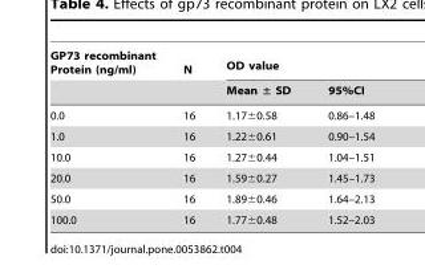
<table><thead><tr><td rowspan="2">GP73 recombinant Protein (ng/ml)</td><td rowspan="2">N</td><td colspan="2">OD value</td></tr><tr><td>Mean ± SD</td><td>95%CI</td></tr></thead><tbody><tr><td>0.0</td><td>16</td><td>1.17±0.58</td><td>0.86–1.48</td></tr><tr><td>1.0</td><td>16</td><td>1.22±0.61</td><td>0.90–1.54</td></tr><tr><td>10.0</td><td>16</td><td>1.27±0.44</td><td>1.04–1.51</td></tr><tr><td>20.0</td><td>16</td><td>1.59±0.27</td><td>1.45–1.73</td></tr><tr><td>50.0</td><td>16</td><td>1.89±0.46</td><td>1.64–2.13</td></tr><tr><td>100.0</td><td>16</td><td>1.77±0.48</td><td>1.52–2.03</td></tr></tbody></table>